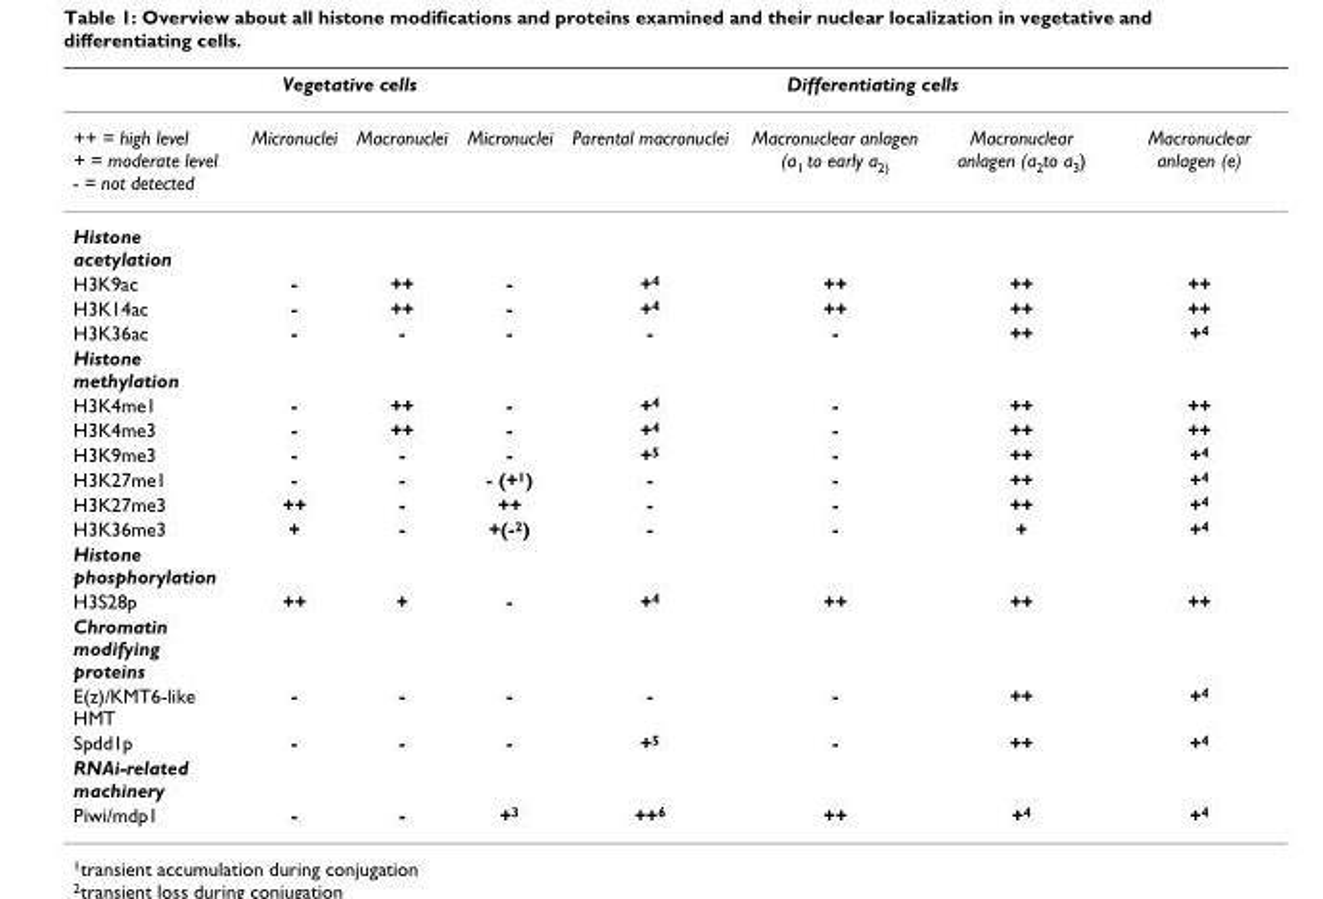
<table><thead><tr><td rowspan="2">++ = high level + = moderate level - = not detected</td><td colspan="2">Vegetative cells</td><td colspan="5">Differentiating cells</td></tr><tr><td>Micronuclei</td><td>Macronuclei</td><td>Micronuclei</td><td>Parental macronuclei</td><td>Macronuclear anlagen (a<sub>1</sub> to early a<sub>2)</sub></td><td>Macronuclear anlagen (a<sub>2</sub>to a<sub>3</sub>)</td><td>Macronuclear anlagen (e)</td></tr></thead><tbody><tr><td colspan="8">Histone acetylation</td></tr><tr><td>H3K9ac</td><td>-</td><td>++</td><td>-</td><td>+<sup>4</sup></td><td>++</td><td>++</td><td>++</td></tr><tr><td>H3K14ac</td><td>-</td><td>++</td><td>-</td><td>+<sup>4</sup></td><td>++</td><td>++</td><td>++</td></tr><tr><td>H3K36ac</td><td>-</td><td>-</td><td>-</td><td>-</td><td>-</td><td>++</td><td>+<sup>4</sup></td></tr><tr><td colspan="8">Histone methylation</td></tr><tr><td>H3K4me1</td><td>-</td><td>++</td><td>-</td><td>+<sup>4</sup></td><td>-</td><td>++</td><td>++</td></tr><tr><td>H3K4me3</td><td>-</td><td>++</td><td>-</td><td>+<sup>4</sup></td><td>-</td><td>++</td><td>++</td></tr><tr><td>H3K9me3</td><td>-</td><td>-</td><td>-</td><td>+<sup>5</sup></td><td>-</td><td>++</td><td>+<sup>4</sup></td></tr><tr><td>H3K27me1</td><td>-</td><td>-</td><td>- (+<sup>1</sup>)</td><td>-</td><td>-</td><td>++</td><td>+<sup>4</sup></td></tr><tr><td>H3K27me3</td><td>++</td><td>-</td><td>++</td><td>-</td><td>-</td><td>++</td><td>+<sup>4</sup></td></tr><tr><td>H3K36me3</td><td>+</td><td>-</td><td>+(-<sup>2</sup>)</td><td>-</td><td>-</td><td>+</td><td>+<sup>4</sup></td></tr><tr><td colspan="8">Histone phosphorylation</td></tr><tr><td>H3S28p</td><td>++</td><td>+</td><td>-</td><td>+<sup>4</sup></td><td>++</td><td>++</td><td>++</td></tr><tr><td colspan="8">Chromatin modifying proteins</td></tr><tr><td>E(z)/KMT6-like HMT</td><td>-</td><td>-</td><td>-</td><td>-</td><td>-</td><td>++</td><td>+<sup>4</sup></td></tr><tr><td>Spdd1p</td><td>-</td><td>-</td><td>-</td><td>+<sup>5</sup></td><td>-</td><td>++</td><td>+<sup>4</sup></td></tr><tr><td colspan="8">RNAi-related machinery</td></tr><tr><td>Piwi/mdp1</td><td>-</td><td>-</td><td>+<sup>3</sup></td><td>++<sup>6</sup></td><td>++</td><td>+<sup>4</sup></td><td>+<sup>4</sup></td></tr></tbody></table>